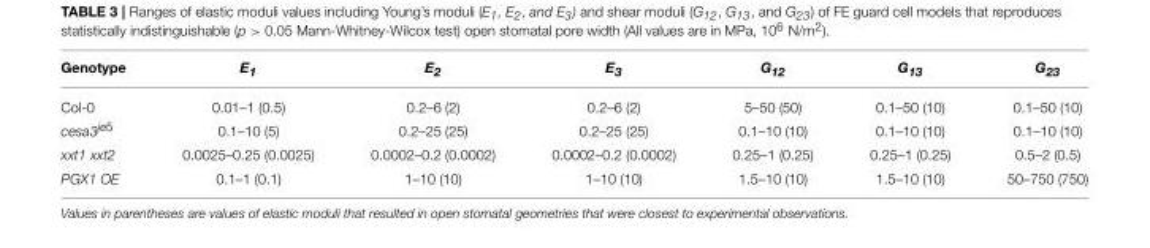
<table><thead><tr><td>Genotype</td><td>E1</td><td>E2</td><td>E3</td><td>G12</td><td>G13</td><td>G23</td></tr></thead><tbody><tr><td>Col-0</td><td>0.01–1 (0.5)</td><td>0.2–6 (2)</td><td>0.2–6 (2)</td><td>5–50 (50)</td><td>0.1–50 (10)</td><td>0.1–50 (10)</td></tr><tr><td>cesa3je5</td><td>0.1–10 (5)</td><td>0.2–25 (25)</td><td>0.2–25 (25)</td><td>0.1–10 (10)</td><td>0.1–10 (10)</td><td>0.1–10 (10)</td></tr><tr><td>xxt1 xxt2</td><td>0.0025–0.25 (0.0025)</td><td>0.0002–0.2 (0.0002)</td><td>0.0002–0.2 (0.0002)</td><td>0.25–1 (0.25)</td><td>0.25–1 (0.25)</td><td>0.5–2 (0.5)</td></tr><tr><td>PGX1 OE</td><td>0.1–1 (0.1)</td><td>1–10 (10)</td><td>1–10 (10)</td><td>1.5–10 (10)</td><td>1.5–10 (10)</td><td>50–750 (750)</td></tr></tbody></table>